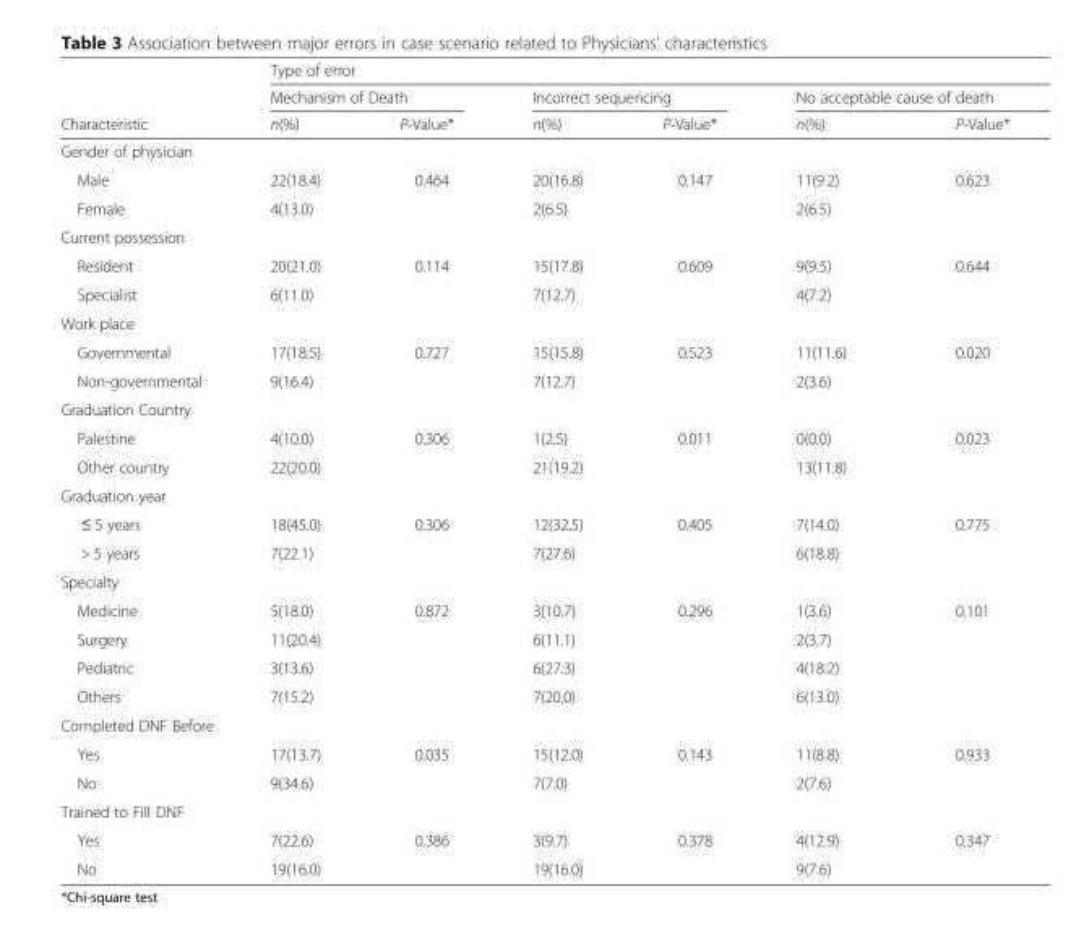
<table><thead><tr><td rowspan="3">Characteristic</td><td colspan="6">Type of error</td></tr><tr><td colspan="2">Mechanism of Death</td><td colspan="2">Incorrect sequencing</td><td colspan="2">No acceptable cause of death</td></tr><tr><td>n(%)</td><td>P-Value*</td><td>n(%)</td><td>P-Value*</td><td>n(%)</td><td>P-Value*</td></tr></thead><tbody><tr><td colspan="7">Gender of physician</td></tr><tr><td>Male</td><td>22(18.4)</td><td rowspan="2">0.464</td><td>20(16.8)</td><td rowspan="2">0.147</td><td>11(9.2)</td><td rowspan="2">0.623</td></tr><tr><td>Female</td><td>4(13.0)</td><td>2(6.5)</td><td>2(6.5)</td></tr><tr><td colspan="7">Current possession</td></tr><tr><td>Resident</td><td>20(21.0)</td><td rowspan="2">0.114</td><td>15(17.8)</td><td rowspan="2">0.609</td><td>9(9.5)</td><td rowspan="2">0.644</td></tr><tr><td>Specialist</td><td>6(11.0)</td><td>7(12.7)</td><td>4(7.2)</td></tr><tr><td colspan="7">Work place</td></tr><tr><td>Governmental</td><td>17(18.5)</td><td rowspan="2">0.727</td><td>15(15.8)</td><td rowspan="2">0.523</td><td>11(11.6)</td><td rowspan="2">0.020</td></tr><tr><td>Non-governmental</td><td>9(16.4)</td><td>7(12.7)</td><td>2(3.6)</td></tr><tr><td colspan="7">Graduation Country</td></tr><tr><td>Palestine</td><td>4(10.0)</td><td rowspan="2">0.306</td><td>1(2.5)</td><td rowspan="2">0.011</td><td>0(0.0)</td><td rowspan="2">0.023</td></tr><tr><td>Other country</td><td>22(20.0)</td><td>21(19.2)</td><td>13(11.8)</td></tr><tr><td colspan="7">Graduation year</td></tr><tr><td>≤ 5 years</td><td>18(45.0)</td><td rowspan="2">0.306</td><td>12(32.5)</td><td rowspan="2">0.405</td><td>7(14.0)</td><td rowspan="2">0.775</td></tr><tr><td>&gt; 5 years</td><td>7(22.1)</td><td>7(27.6)</td><td>6(18.8)</td></tr><tr><td colspan="7">Specialty</td></tr><tr><td>Medicine</td><td>5(18.0)</td><td rowspan="4">0.872</td><td>3(10.7)</td><td rowspan="4">0.296</td><td>1(3.6)</td><td rowspan="4">0.101</td></tr><tr><td>Surgery</td><td>11(20.4)</td><td>6(11.1)</td><td>2(3.7)</td></tr><tr><td>Pediatric</td><td>3(13.6)</td><td>6(27.3)</td><td>4(18.2)</td></tr><tr><td>Others</td><td>7(15.2)</td><td>7(20.0)</td><td>6(13.0)</td></tr><tr><td colspan="7">Completed DNF Before</td></tr><tr><td>Yes</td><td>17(13.7)</td><td rowspan="2">0.035</td><td>15(12.0)</td><td rowspan="2">0.143</td><td>11(8.8)</td><td rowspan="2">0.933</td></tr><tr><td>No</td><td>9(34.6)</td><td>7(7.0)</td><td>2(7.6)</td></tr><tr><td colspan="7">Trained to Fill DNF</td></tr><tr><td>Yes</td><td>7(22.6)</td><td rowspan="2">0.386</td><td>3(9.7)</td><td rowspan="2">0.378</td><td>4(12.9)</td><td rowspan="2">0.347</td></tr><tr><td>No</td><td>19(16.0)</td><td>19(16.0)</td><td>9(7.6)</td></tr></tbody></table>